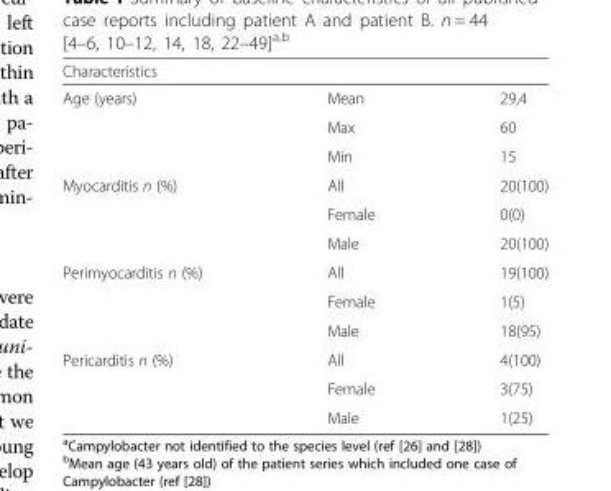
<table><thead><tr><td>Characteristics</td><td></td><td></td></tr></thead><tbody><tr><td rowspan="3">Age (years)</td><td>Mean</td><td>29,4</td></tr><tr><td>Max</td><td>60</td></tr><tr><td>Min</td><td>15</td></tr><tr><td rowspan="3">Myocarditis n (%)</td><td>All</td><td>20(100)</td></tr><tr><td>Female</td><td>0(0)</td></tr><tr><td>Male</td><td>20(100)</td></tr><tr><td rowspan="3">Perimyocarditis n (%)</td><td>All</td><td>19(100)</td></tr><tr><td>Female</td><td>1(5)</td></tr><tr><td>Male</td><td>18(95)</td></tr><tr><td rowspan="3">Pericarditis n (%)</td><td>All</td><td>4(100)</td></tr><tr><td>Female</td><td>3(75)</td></tr><tr><td>Male</td><td>1(25)</td></tr></tbody></table>